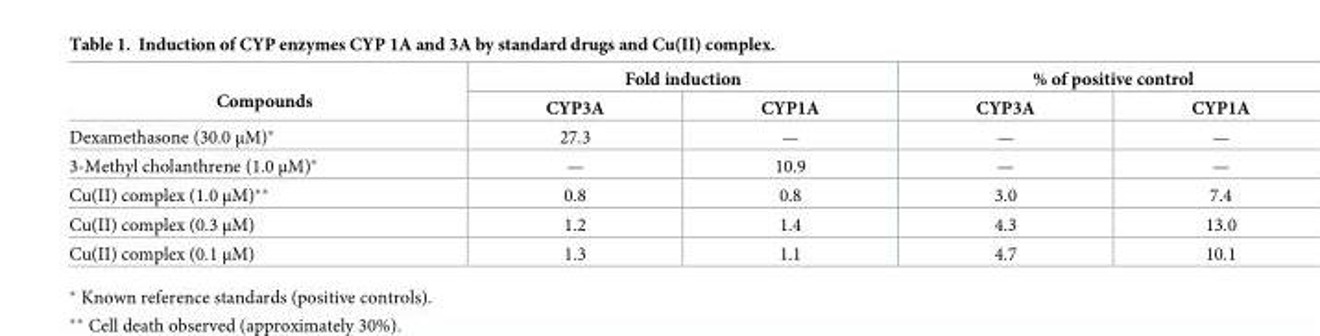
<table><thead><tr><td rowspan="2">Compounds</td><td colspan="2">Fold induction</td><td colspan="2">% of positive control</td></tr><tr><td>CYP3A</td><td>CYP1A</td><td>CYP3A</td><td>CYP1A</td></tr></thead><tbody><tr><td>Dexamethasone (30.0 μM)*</td><td>27.3</td><td>—</td><td>—</td><td>—</td></tr><tr><td>3-Methyl cholanthrene (1.0 μM)*</td><td>—</td><td>10.9</td><td>—</td><td>—</td></tr><tr><td>Cu(II) complex (1.0 μM)**</td><td>0.8</td><td>0.8</td><td>3.0</td><td>7.4</td></tr><tr><td>Cu(II) complex (0.3 μM)</td><td>1.2</td><td>1.4</td><td>4.3</td><td>13.0</td></tr><tr><td>Cu(II) complex (0.1 μM)</td><td>1.3</td><td>1.1</td><td>4.7</td><td>10.1</td></tr></tbody></table>